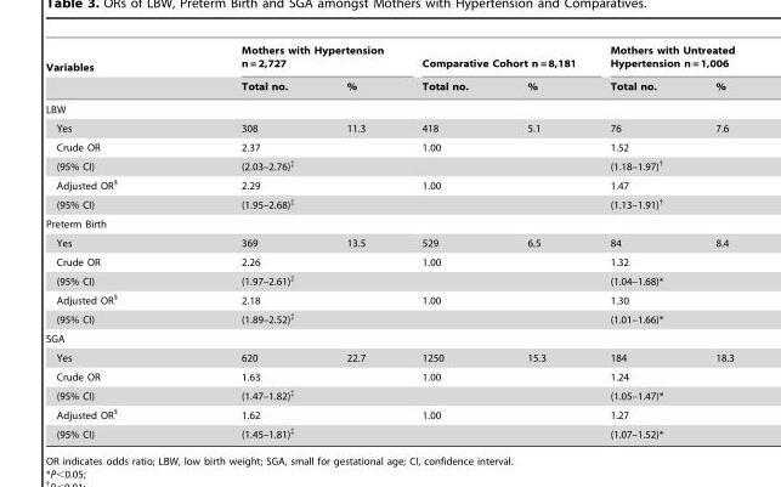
<table><thead><tr><td rowspan="2">Variables</td><td colspan="2">Mothers with Hypertension n = 2,727</td><td colspan="2">Comparative Cohort n = 8,181</td><td colspan="2">Mothers with Untreated Hypertension n = 1,006</td></tr><tr><td>Total no.</td><td>%</td><td>Total no.</td><td>%</td><td>Total no.</td><td>%</td></tr></thead><tbody><tr><td colspan="7">LBW</td></tr><tr><td>Yes</td><td>308</td><td>11.3</td><td>418</td><td>5.1</td><td>76</td><td>7.6</td></tr><tr><td>Crude OR</td><td colspan="2">2.37</td><td colspan="2">1.00</td><td colspan="2">1.52</td></tr><tr><td>(95% CI)</td><td colspan="2">(2.03–2.76)‡</td><td colspan="2"></td><td colspan="2">(1.18–1.97)†</td></tr><tr><td>Adjusted OR§</td><td colspan="2">2.29</td><td colspan="2">1.00</td><td colspan="2">1.47</td></tr><tr><td>(95% CI)</td><td colspan="2">(1.95–2.68)‡</td><td colspan="2"></td><td colspan="2">(1.13–1.91)†</td></tr><tr><td colspan="7">Preterm Birth</td></tr><tr><td>Yes</td><td>369</td><td>13.5</td><td>529</td><td>6.5</td><td>84</td><td>8.4</td></tr><tr><td>Crude OR</td><td colspan="2">2.26</td><td colspan="2">1.00</td><td colspan="2">1.32</td></tr><tr><td>(95% CI)</td><td colspan="2">(1.97–2.61)‡</td><td colspan="2"></td><td colspan="2">(1.04–1.68)*</td></tr><tr><td>Adjusted OR§</td><td colspan="2">2.18</td><td colspan="2">1.00</td><td colspan="2">1.30</td></tr><tr><td>(95% CI)</td><td colspan="2">(1.89–2.52)‡</td><td colspan="2"></td><td colspan="2">(1.01–1.66)*</td></tr><tr><td colspan="7">SGA</td></tr><tr><td>Yes</td><td>620</td><td>22.7</td><td>1250</td><td>15.3</td><td>184</td><td>18.3</td></tr><tr><td>Crude OR</td><td colspan="2">1.63</td><td colspan="2">1.00</td><td colspan="2">1.24</td></tr><tr><td>(95% CI)</td><td colspan="2">(1.47–1.82)‡</td><td colspan="2"></td><td colspan="2">(1.05–1.47)*</td></tr><tr><td>Adjusted OR§</td><td colspan="2">1.62</td><td colspan="2">1.00</td><td colspan="2">1.27</td></tr><tr><td>(95% CI)</td><td colspan="2">(1.45–1.81)‡</td><td colspan="2"></td><td colspan="2">(1.07–1.52)*</td></tr></tbody></table>